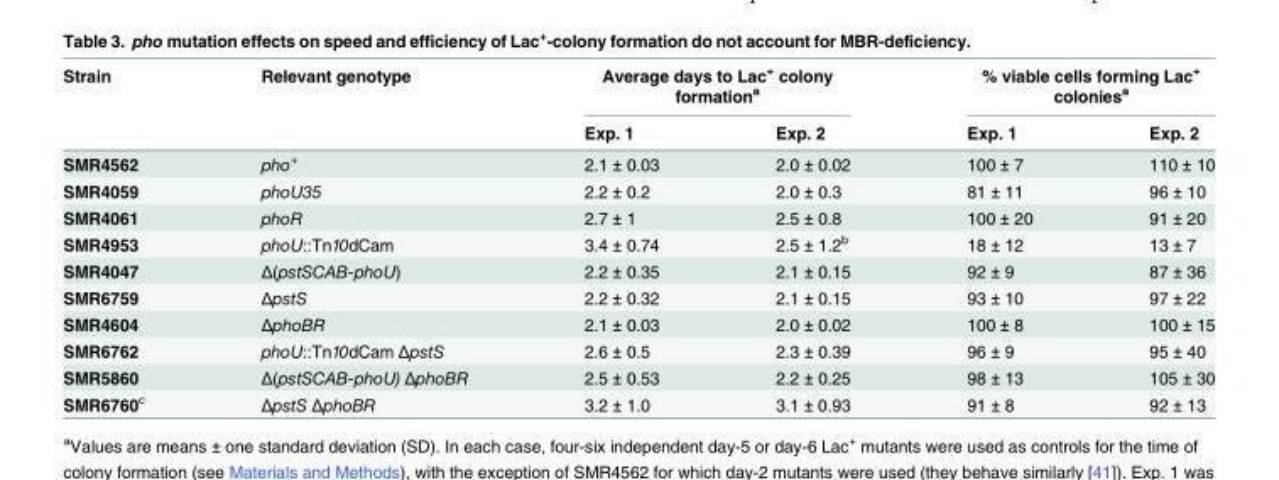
<table><thead><tr><td rowspan="2">Strain</td><td rowspan="2">Relevant genotype</td><td colspan="2">Average days to Lac<sup>+</sup> colony formation<sup>a</sup></td><td colspan="2">% viable cells forming Lac<sup>+</sup> colonies<sup>a</sup></td></tr><tr><td>Exp. 1</td><td>Exp. 2</td><td>Exp. 1</td><td>Exp. 2</td></tr></thead><tbody><tr><td>SMR4562</td><td>pho<sup>+</sup></td><td>2.1 ± 0.03</td><td>2.0 ± 0.02</td><td>100 ± 7</td><td>110 ± 10</td></tr><tr><td>SMR4059</td><td>phoU35</td><td>2.2 ± 0.2</td><td>2.0 ± 0.3</td><td>81 ± 11</td><td>96 ± 10</td></tr><tr><td>SMR4061</td><td>phoR</td><td>2.7 ± 1</td><td>2.5 ± 0.8</td><td>100 ± 20</td><td>91 ± 20</td></tr><tr><td>SMR4953</td><td>phoU::Tn10dCam</td><td>3.4 ± 0.74</td><td>2.5 ± 1.2<sup>b</sup></td><td>18 ± 12</td><td>13 ± 7</td></tr><tr><td>SMR4047</td><td>Δ(pstSCAB-phoU)</td><td>2.2 ± 0.35</td><td>2.1 ± 0.15</td><td>92 ± 9</td><td>87 ± 36</td></tr><tr><td>SMR6759</td><td>ΔpstS</td><td>2.2 ± 0.32</td><td>2.1 ± 0.15</td><td>93 ± 10</td><td>97 ± 22</td></tr><tr><td>SMR4604</td><td>ΔphoBR</td><td>2.1 ± 0.03</td><td>2.0 ± 0.02</td><td>100 ± 8</td><td>100 ± 15</td></tr><tr><td>SMR6762</td><td>phoU::Tn10dCam ΔpstS</td><td>2.6 ± 0.5</td><td>2.3 ± 0.39</td><td>96 ± 9</td><td>95 ± 40</td></tr><tr><td>SMR5860</td><td>Δ(pstSCAB-phoU) ΔphoBR</td><td>2.5 ± 0.53</td><td>2.2 ± 0.25</td><td>98 ± 13</td><td>105 ± 30</td></tr><tr><td>SMR6760<sup>c</sup></td><td>ΔpstS ΔphoBR</td><td>3.2 ± 1.0</td><td>3.1 ± 0.93</td><td>91 ± 8</td><td>92 ± 13</td></tr></tbody></table>